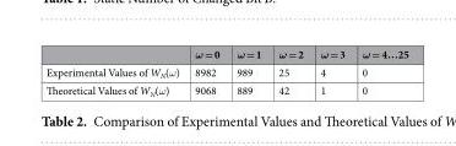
<table><thead><tr><td></td><td>ω = 0</td><td>ω = 1</td><td>ω = 2</td><td>ω = 3</td><td>ω = 4…25</td></tr></thead><tbody><tr><td>Experimental Values of W<sub>N</sub>(ω)</td><td>8982</td><td>989</td><td>25</td><td>4</td><td>0</td></tr><tr><td>Theoretical Values of W<sub>N</sub>(ω)</td><td>9068</td><td>889</td><td>42</td><td>1</td><td>0</td></tr></tbody></table>